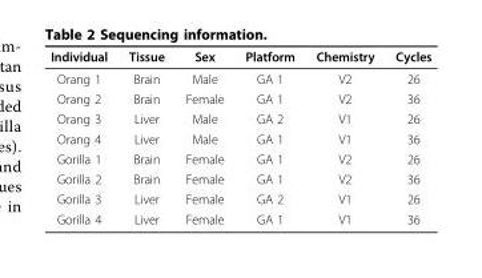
<table><thead><tr><td>Individual</td><td>Tissue</td><td>Sex</td><td>Platform</td><td>Chemistry</td><td>Cycles</td></tr></thead><tbody><tr><td>Orang 1</td><td>Brain</td><td>Male</td><td>GA 1</td><td>V2</td><td>26</td></tr><tr><td>Orang 2</td><td>Brain</td><td>Female</td><td>GA 1</td><td>V2</td><td>36</td></tr><tr><td>Orang 3</td><td>Liver</td><td>Male</td><td>GA 2</td><td>V1</td><td>26</td></tr><tr><td>Orang 4</td><td>Liver</td><td>Male</td><td>GA 1</td><td>V1</td><td>36</td></tr><tr><td>Gorilla 1</td><td>Brain</td><td>Female</td><td>GA 1</td><td>V2</td><td>26</td></tr><tr><td>Gorilla 2</td><td>Brain</td><td>Female</td><td>GA 1</td><td>V2</td><td>36</td></tr><tr><td>Gorilla 3</td><td>Liver</td><td>Female</td><td>GA 2</td><td>V1</td><td>26</td></tr><tr><td>Gorilla 4</td><td>Liver</td><td>Female</td><td>GA 1</td><td>V1</td><td>36</td></tr></tbody></table>